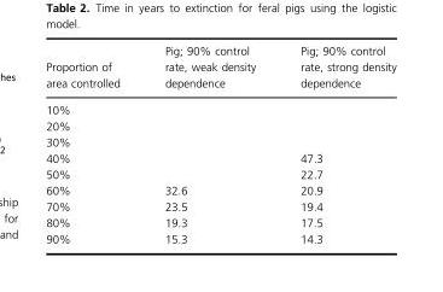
<table><thead><tr><td>Proportion of area controlled</td><td>Pig; 90% control rate, weak density dependence</td><td>Pig; 90% control rate, strong density dependence</td></tr></thead><tbody><tr><td colspan="3">10%</td></tr><tr><td colspan="3">20%</td></tr><tr><td colspan="3">30%</td></tr><tr><td>40%</td><td></td><td>47.3</td></tr><tr><td>50%</td><td></td><td>22.7</td></tr><tr><td>60%</td><td>32.6</td><td>20.9</td></tr><tr><td>70%</td><td>23.5</td><td>19.4</td></tr><tr><td>80%</td><td>19.3</td><td>17.5</td></tr><tr><td>90%</td><td>15.3</td><td>14.3</td></tr></tbody></table>